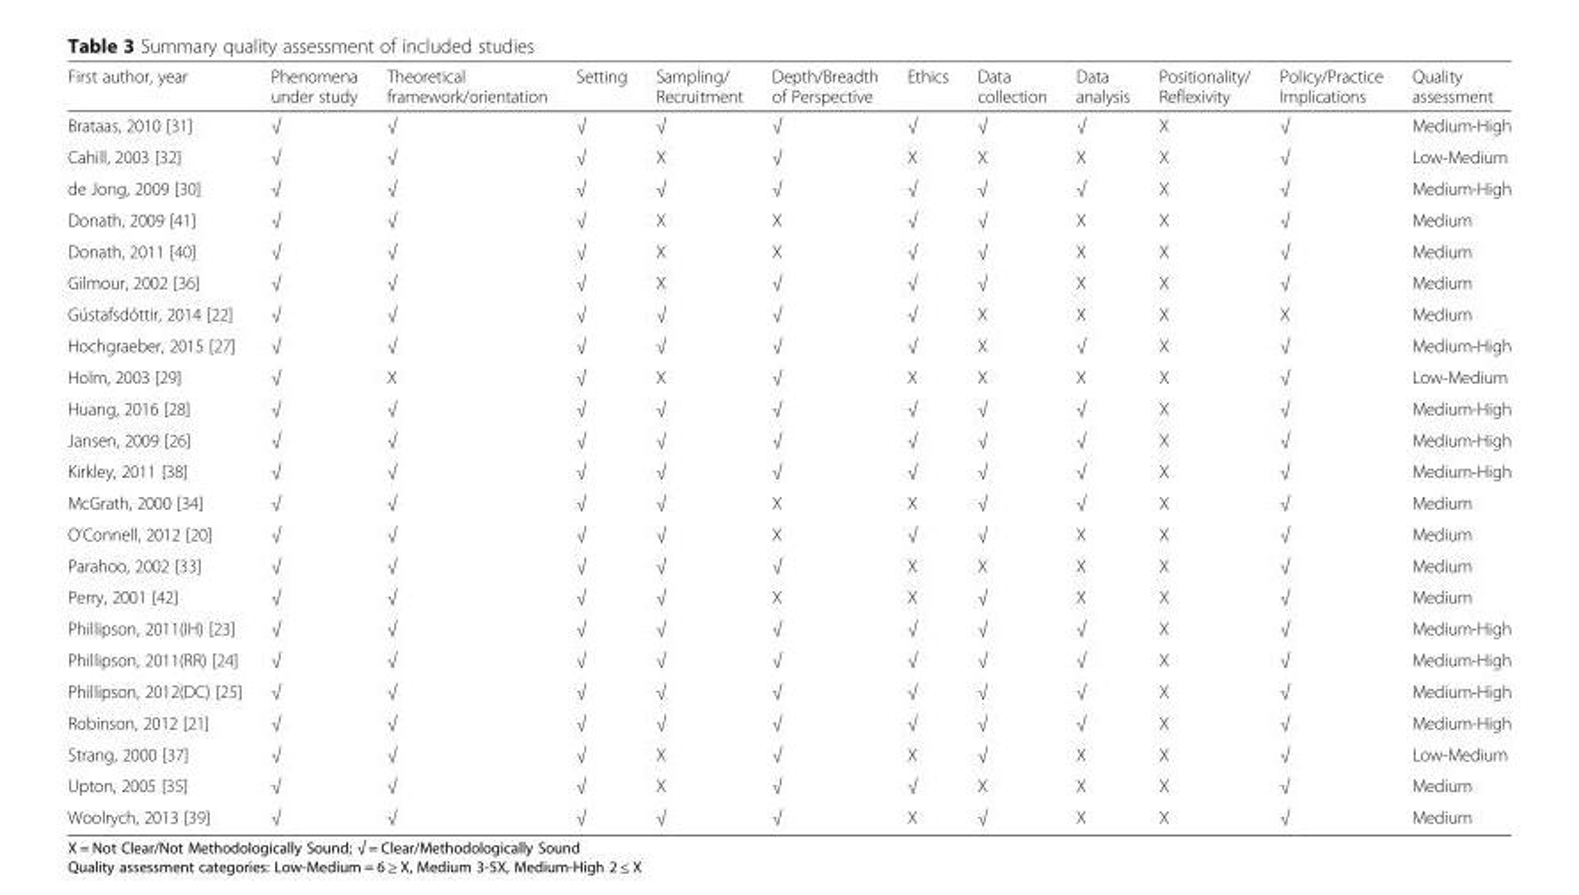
<table><thead><tr><td>First author, year</td><td>Phenomena under study</td><td>Theoretical framework/orientation</td><td>Setting</td><td>Sampling/ Recruitment</td><td>Depth/Breadth of Perspective</td><td>Ethics</td><td>Data collection</td><td>Data analysis</td><td>Positionality/ Reflexivity</td><td>Policy/Practice Implications</td><td>Quality assessment</td></tr></thead><tbody><tr><td>Brataas, 2010 [31]</td><td>√</td><td>√</td><td>√</td><td>√</td><td>√</td><td>√</td><td>√</td><td>√</td><td>X</td><td>√</td><td>Medium-High</td></tr><tr><td>Cahill, 2003 [32]</td><td>√</td><td>√</td><td>√</td><td>X</td><td>√</td><td>X</td><td>X</td><td>X</td><td>X</td><td>√</td><td>Low-Medium</td></tr><tr><td>de Jong, 2009 [30]</td><td>√</td><td>√</td><td>√</td><td>√</td><td>√</td><td>√</td><td>√</td><td>√</td><td>X</td><td>√</td><td>Medium-High</td></tr><tr><td>Donath, 2009 [41]</td><td>√</td><td>√</td><td>√</td><td>X</td><td>X</td><td>√</td><td>√</td><td>X</td><td>X</td><td>√</td><td>Medium</td></tr><tr><td>Donath, 2011 [40]</td><td>√</td><td>√</td><td>√</td><td>X</td><td>X</td><td>√</td><td>√</td><td>X</td><td>X</td><td>√</td><td>Medium</td></tr><tr><td>Gilmour, 2002 [36]</td><td>√</td><td>√</td><td>√</td><td>X</td><td>√</td><td>√</td><td>√</td><td>X</td><td>X</td><td>√</td><td>Medium</td></tr><tr><td>Gústafsdóttir, 2014 [22]</td><td>√</td><td>√</td><td>√</td><td>√</td><td>√</td><td>√</td><td>X</td><td>X</td><td>X</td><td>X</td><td>Medium</td></tr><tr><td>Hochgraeber, 2015 [27]</td><td>√</td><td>√</td><td>√</td><td>√</td><td>√</td><td>√</td><td>X</td><td>√</td><td>X</td><td>√</td><td>Medium-High</td></tr><tr><td>Holm, 2003 [29]</td><td>√</td><td>X</td><td>√</td><td>X</td><td>√</td><td>X</td><td>X</td><td>X</td><td>X</td><td>√</td><td>Low-Medium</td></tr><tr><td>Huang, 2016 [28]</td><td>√</td><td>√</td><td>√</td><td>√</td><td>√</td><td>√</td><td>√</td><td>√</td><td>X</td><td>√</td><td>Medium-High</td></tr><tr><td>Jansen, 2009 [26]</td><td>√</td><td>√</td><td>√</td><td>√</td><td>√</td><td>√</td><td>√</td><td>√</td><td>X</td><td>√</td><td>Medium-High</td></tr><tr><td>Kirkley, 2011 [38]</td><td>√</td><td>√</td><td>√</td><td>√</td><td>√</td><td>√</td><td>√</td><td>√</td><td>X</td><td>√</td><td>Medium-High</td></tr><tr><td>McGrath, 2000 [34]</td><td>√</td><td>√</td><td>√</td><td>√</td><td>X</td><td>X</td><td>√</td><td>√</td><td>X</td><td>√</td><td>Medium</td></tr><tr><td>O’Connell, 2012 [20]</td><td>√</td><td>√</td><td>√</td><td>√</td><td>X</td><td>√</td><td>√</td><td>X</td><td>X</td><td>√</td><td>Medium</td></tr><tr><td>Parahoo, 2002 [33]</td><td>√</td><td>√</td><td>√</td><td>√</td><td>√</td><td>X</td><td>X</td><td>X</td><td>X</td><td>√</td><td>Medium</td></tr><tr><td>Perry, 2001 [42]</td><td>√</td><td>√</td><td>√</td><td>√</td><td>X</td><td>X</td><td>√</td><td>X</td><td>X</td><td>√</td><td>Medium</td></tr><tr><td>Phillipson, 2011(IH) [23]</td><td>√</td><td>√</td><td>√</td><td>√</td><td>√</td><td>√</td><td>√</td><td>√</td><td>X</td><td>√</td><td>Medium-High</td></tr><tr><td>Phillipson, 2011(RR) [24]</td><td>√</td><td>√</td><td>√</td><td>√</td><td>√</td><td>√</td><td>√</td><td>√</td><td>X</td><td>√</td><td>Medium-High</td></tr><tr><td>Phillipson, 2012(DC) [25]</td><td>√</td><td>√</td><td>√</td><td>√</td><td>√</td><td>√</td><td>√</td><td>√</td><td>X</td><td>√</td><td>Medium-High</td></tr><tr><td>Robinson, 2012 [21]</td><td>√</td><td>√</td><td>√</td><td>√</td><td>√</td><td>√</td><td>√</td><td>√</td><td>X</td><td>√</td><td>Medium-High</td></tr><tr><td>Strang, 2000 [37]</td><td>√</td><td>√</td><td>√</td><td>X</td><td>√</td><td>X</td><td>√</td><td>X</td><td>X</td><td>√</td><td>Low-Medium</td></tr><tr><td>Upton, 2005 [35]</td><td>√</td><td>√</td><td>√</td><td>X</td><td>√</td><td>√</td><td>X</td><td>X</td><td>X</td><td>√</td><td>Medium</td></tr><tr><td>Woolrych, 2013 [39]</td><td>√</td><td>√</td><td>√</td><td>√</td><td>√</td><td>X</td><td>√</td><td>X</td><td>X</td><td>√</td><td>Medium</td></tr></tbody></table>